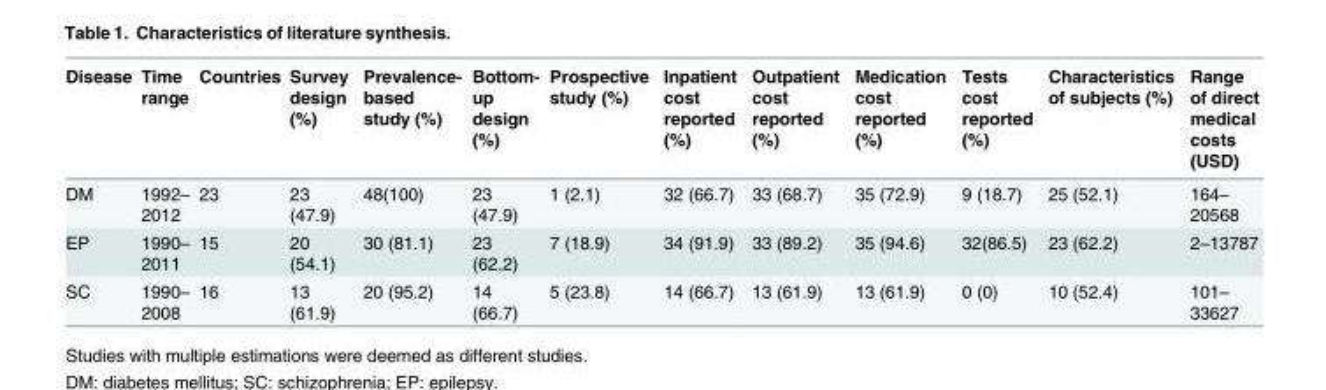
<table><thead><tr><td>Disease</td><td>Time range</td><td>Countries</td><td>Survey design (%)</td><td>Prevalence- based study (%)</td><td>Bottom- up design (%)</td><td>Prospective study (%)</td><td>Inpatient cost reported (%)</td><td>Outpatient cost reported (%)</td><td>Medication cost reported (%)</td><td>Tests cost reported (%)</td><td>Characteristics of subjects (%)</td><td>Range of direct medical costs (USD)</td></tr></thead><tbody><tr><td>DM</td><td>1992– 2012</td><td>23</td><td>23 (47.9)</td><td>48(100)</td><td>23 (47.9)</td><td>1 (2.1)</td><td>32 (66.7)</td><td>33 (68.7)</td><td>35 (72.9)</td><td>9 (18.7)</td><td>25 (52.1)</td><td>164– 20568</td></tr><tr><td>EP</td><td>1990– 2011</td><td>15</td><td>20 (54.1)</td><td>30 (81.1)</td><td>23 (62.2)</td><td>7 (18.9)</td><td>34 (91.9)</td><td>33 (89.2)</td><td>35 (94.6)</td><td>32(86.5)</td><td>23 (62.2)</td><td>2–13787</td></tr><tr><td>SC</td><td>1990– 2008</td><td>16</td><td>13 (61.9)</td><td>20 (95.2)</td><td>14 (66.7)</td><td>5 (23.8)</td><td>14 (66.7)</td><td>13 (61.9)</td><td>13 (61.9)</td><td>0 (0)</td><td>10 (52.4)</td><td>101– 33627</td></tr></tbody></table>